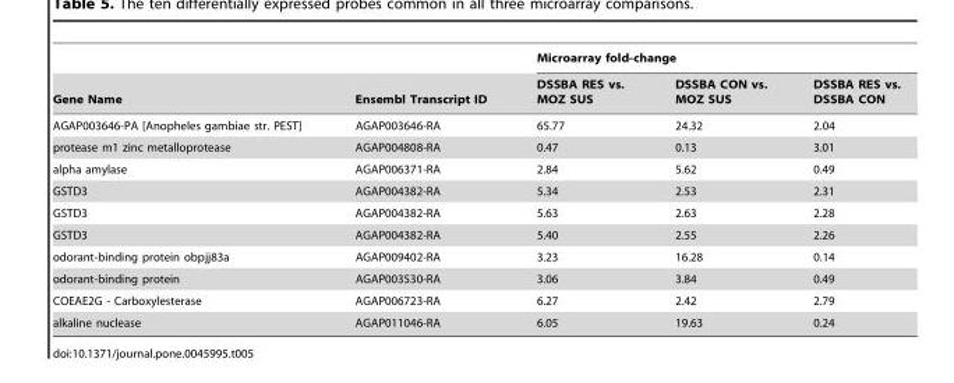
<table><thead><tr><td rowspan="2">Gene Name</td><td rowspan="2">Ensembl Transcript ID</td><td colspan="3">Microarray fold-change</td></tr><tr><td>DSSBA RES vs. MOZ SUS</td><td>DSSBA CON vs. MOZ SUS</td><td>DSSBA RES vs. DSSBA CON</td></tr></thead><tbody><tr><td>AGAP003646-PA [Anopheles gambiae str. PEST]</td><td>AGAP003646-RA</td><td>65.77</td><td>24.32</td><td>2.04</td></tr><tr><td>protease m1 zinc metalloprotease</td><td>AGAP004808-RA</td><td>0.47</td><td>0.13</td><td>3.01</td></tr><tr><td>alpha amylase</td><td>AGAP006371-RA</td><td>2.84</td><td>5.62</td><td>0.49</td></tr><tr><td>GSTD3</td><td>AGAP004382-RA</td><td>5.34</td><td>2.53</td><td>2.31</td></tr><tr><td>GSTD3</td><td>AGAP004382-RA</td><td>5.63</td><td>2.63</td><td>2.28</td></tr><tr><td>GSTD3</td><td>AGAP004382-RA</td><td>5.40</td><td>2.55</td><td>2.26</td></tr><tr><td>odorant-binding protein obpjj83a</td><td>AGAP009402-RA</td><td>3.23</td><td>16.28</td><td>0.14</td></tr><tr><td>odorant-binding protein</td><td>AGAP003530-RA</td><td>3.06</td><td>3.84</td><td>0.49</td></tr><tr><td>COEAE2G - Carboxylesterase</td><td>AGAP006723-RA</td><td>6.27</td><td>2.42</td><td>2.79</td></tr><tr><td>alkaline nuclease</td><td>AGAP011046-RA</td><td>6.05</td><td>19.63</td><td>0.24</td></tr></tbody></table>